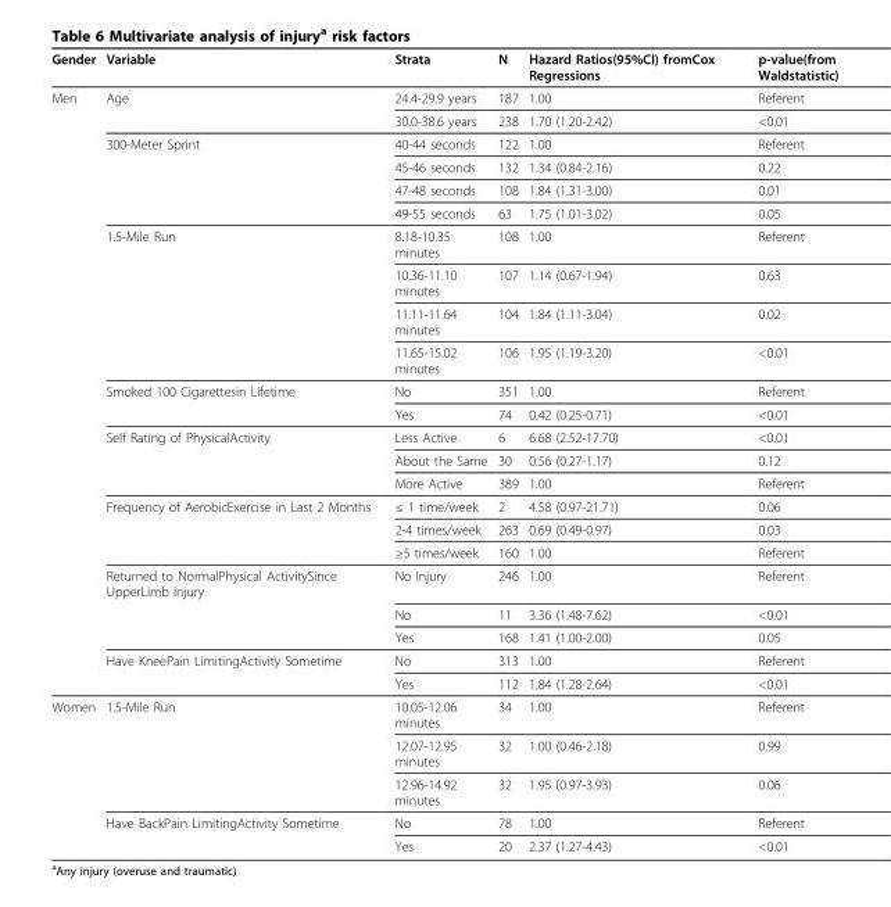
<table><thead><tr><td>Gender</td><td>Variable</td><td>Strata</td><td>N</td><td>Hazard Ratios(95%CI) fromCox Regressions</td><td>p-value(from Waldstatistic)</td></tr></thead><tbody><tr><td rowspan="23">Men</td><td>Age</td><td>24.4-29.9 years</td><td>187</td><td>1.00</td><td>Referent</td></tr><tr><td></td><td>30.0-38.6 years</td><td>238</td><td>1.70 (1.20-2.42)</td><td>&lt;0.01</td></tr><tr><td>300-Meter Sprint</td><td>40-44 seconds</td><td>122</td><td>1.00</td><td>Referent</td></tr><tr><td></td><td>45-46 seconds</td><td>132</td><td>1.34 (0.84-2.16)</td><td>0.22</td></tr><tr><td></td><td>47-48 seconds</td><td>108</td><td>1.84 (1.31-3.00)</td><td>0.01</td></tr><tr><td></td><td>49-55 seconds</td><td>63</td><td>1.75 (1.01-3.02)</td><td>0.05</td></tr><tr><td>1.5-Mile Run</td><td>8.18-10.35 minutes</td><td>108</td><td>1.00</td><td>Referent</td></tr><tr><td></td><td>10.36-11.10 minutes</td><td>107</td><td>1.14 (0.67-1.94)</td><td>0.63</td></tr><tr><td></td><td>11.11-11.64 minutes</td><td>104</td><td>1.84 (1.11-3.04)</td><td>0.02</td></tr><tr><td></td><td>11.65-15.02 minutes</td><td>106</td><td>1.95 (1.19-3.20)</td><td>&lt;0.01</td></tr><tr><td>Smoked 100 Cigarettesin Lifetime</td><td>No</td><td>351</td><td>1.00</td><td>Referent</td></tr><tr><td></td><td>Yes</td><td>74</td><td>0.42 (0.25-0.71)</td><td>&lt;0.01</td></tr><tr><td>Self Rating of PhysicalActivity</td><td>Less Active</td><td>6</td><td>6.68 (2.52-17.70)</td><td>&lt;0.01</td></tr><tr><td></td><td>About the Same</td><td>30</td><td>0.56 (0.27-1.17)</td><td>0.12</td></tr><tr><td></td><td>More Active</td><td>389</td><td>1.00</td><td>Referent</td></tr><tr><td>Frequency of AerobicExercise in Last 2 Months</td><td>≤ 1 time/week</td><td>2</td><td>4.58 (0.97-21.71)</td><td>0.06</td></tr><tr><td></td><td>2-4 times/week</td><td>263</td><td>0.69 (0.49-0.97)</td><td>0.03</td></tr><tr><td></td><td>≥5 times/week</td><td>160</td><td>1.00</td><td>Referent</td></tr><tr><td>Returned to NormalPhysical ActivitySince UpperLimb Injury</td><td>No Injury</td><td>246</td><td>1.00</td><td>Referent</td></tr><tr><td></td><td>No</td><td>11</td><td>3.36 (1.48-7.62)</td><td>&lt;0.01</td></tr><tr><td></td><td>Yes</td><td>168</td><td>1.41 (1.00-2.00)</td><td>0.05</td></tr><tr><td>Have KneePain LimitingActivity Sometime</td><td>No</td><td>313</td><td>1.00</td><td>Referent</td></tr><tr><td></td><td>Yes</td><td>112</td><td>1.84 (1.28-2.64)</td><td>&lt;0.01</td></tr><tr><td rowspan="5">Women</td><td>1.5-Mile Run</td><td>10.05-12.06 minutes</td><td>34</td><td>1.00</td><td>Referent</td></tr><tr><td></td><td>12.07-12.95 minutes</td><td>32</td><td>1.00 (0.46-2.18)</td><td>0.99</td></tr><tr><td></td><td>12.96-14.92 minutes</td><td>32</td><td>1.95 (0.97-3.93)</td><td>0.06</td></tr><tr><td>Have BackPain LimitingActivity Sometime</td><td>No</td><td>78</td><td>1.00</td><td>Referent</td></tr><tr><td></td><td>Yes</td><td>20</td><td>2.37 (1.27-4.43)</td><td>&lt;0.01</td></tr></tbody></table>